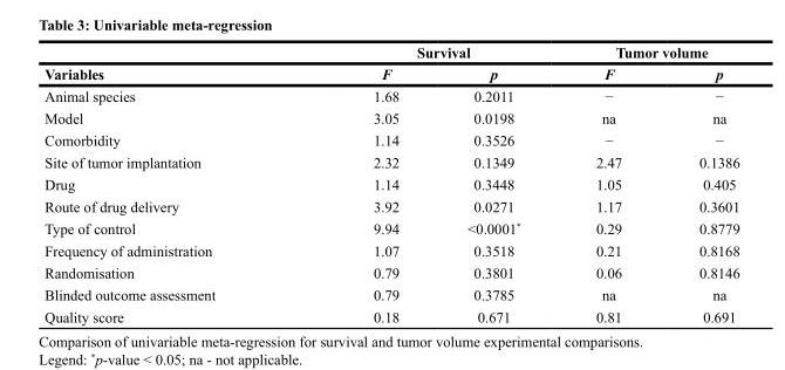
<table><thead><tr><td rowspan="2">Variables</td><td colspan="2">Survival</td><td colspan="2">Tumor volume</td></tr><tr><td>F</td><td>p</td><td>F</td><td>p</td></tr></thead><tbody><tr><td>Animal species</td><td>1.68</td><td>0.2011</td><td>−</td><td>−</td></tr><tr><td>Model</td><td>3.05</td><td>0.0198</td><td>na</td><td>na</td></tr><tr><td>Comorbidity</td><td>1.14</td><td>0.3526</td><td>−</td><td>−</td></tr><tr><td>Site of tumor implantation</td><td>2.32</td><td>0.1349</td><td>2.47</td><td>0.1386</td></tr><tr><td>Drug</td><td>1.14</td><td>0.3448</td><td>1.05</td><td>0.405</td></tr><tr><td>Route of drug delivery</td><td>3.92</td><td>0.0271</td><td>1.17</td><td>0.3601</td></tr><tr><td>Type of control</td><td>9.94</td><td>&lt;0.0001*</td><td>0.29</td><td>0.8779</td></tr><tr><td>Frequency of administration</td><td>1.07</td><td>0.3518</td><td>0.21</td><td>0.8168</td></tr><tr><td>Randomisation</td><td>0.79</td><td>0.3801</td><td>0.06</td><td>0.8146</td></tr><tr><td>Blinded outcome assessment</td><td>0.79</td><td>0.3785</td><td>na</td><td>na</td></tr><tr><td>Quality score</td><td>0.18</td><td>0.671</td><td>0.81</td><td>0.691</td></tr></tbody></table>